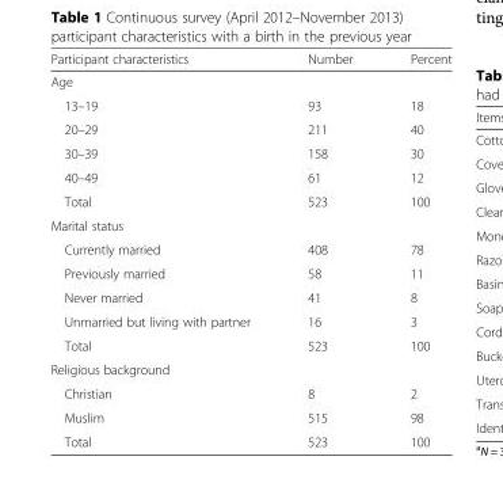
<table><thead><tr><td>Participant characteristics</td><td>Number</td><td>Percent</td></tr></thead><tbody><tr><td colspan="3">Age</td></tr><tr><td>13–19</td><td>93</td><td>18</td></tr><tr><td>20–29</td><td>211</td><td>40</td></tr><tr><td>30–39</td><td>158</td><td>30</td></tr><tr><td>40–49</td><td>61</td><td>12</td></tr><tr><td>Total</td><td>523</td><td>100</td></tr><tr><td colspan="3">Marital status</td></tr><tr><td>Currently married</td><td>408</td><td>78</td></tr><tr><td>Previously married</td><td>58</td><td>11</td></tr><tr><td>Never married</td><td>41</td><td>8</td></tr><tr><td>Unmarried but living with partner</td><td>16</td><td>3</td></tr><tr><td>Total</td><td>523</td><td>100</td></tr><tr><td colspan="3">Religious background</td></tr><tr><td>Christian</td><td>8</td><td>2</td></tr><tr><td>Muslim</td><td>515</td><td>98</td></tr><tr><td>Total</td><td>523</td><td>100</td></tr></tbody></table>